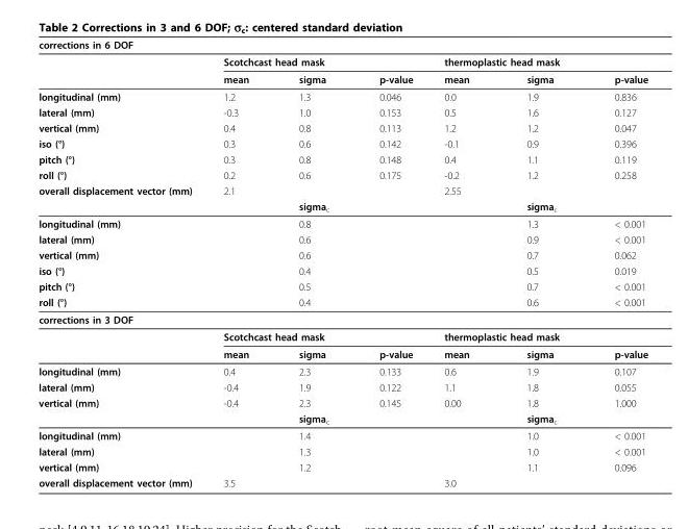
<table><thead><tr><td colspan="2">corrections in 6 DOF</td><td></td><td rowspan="3">p-value</td><td></td><td></td><td rowspan="3">p-value</td></tr><tr><td rowspan="2"></td><td colspan="2">Scotchcast head mask</td><td colspan="2">thermoplastic head mask</td></tr><tr><td>mean</td><td>sigma</td><td>mean</td><td>sigma</td></tr></thead><tbody><tr><td>longitudinal (mm)</td><td>1.2</td><td>1.3</td><td>0.046</td><td>0.0</td><td>1.9</td><td>0.836</td></tr><tr><td>lateral (mm)</td><td>-0.3</td><td>1.0</td><td>0.153</td><td>0.5</td><td>1.6</td><td>0.127</td></tr><tr><td>vertical (mm)</td><td>0.4</td><td>0.8</td><td>0.113</td><td>1.2</td><td>1.2</td><td>0.047</td></tr><tr><td>iso (°)</td><td>0.3</td><td>0.6</td><td>0.142</td><td>-0.1</td><td>0.9</td><td>0.396</td></tr><tr><td>pitch (°)</td><td>0.3</td><td>0.8</td><td>0.148</td><td>0.4</td><td>1.1</td><td>0.119</td></tr><tr><td>roll (°)</td><td>0.2</td><td>0.6</td><td>0.175</td><td>-0.2</td><td>1.2</td><td>0.258</td></tr><tr><td rowspan="2">overall displacement vector (mm)</td><td>2.1</td><td></td><td></td><td>2.55</td><td></td><td></td></tr><tr><td></td><td>sigma<sub>c</sub></td><td></td><td></td><td>sigma<sub>c</sub></td><td></td></tr><tr><td>longitudinal (mm)</td><td></td><td>0.8</td><td></td><td></td><td>1.3</td><td>&lt; 0.001</td></tr><tr><td>lateral (mm)</td><td></td><td>0.6</td><td></td><td></td><td>0.9</td><td>&lt; 0.001</td></tr><tr><td>vertical (mm)</td><td></td><td>0.6</td><td></td><td></td><td>0.7</td><td>0.062</td></tr><tr><td>iso (°)</td><td></td><td>0.4</td><td></td><td></td><td>0.5</td><td>0.019</td></tr><tr><td>pitch (°)</td><td></td><td>0.5</td><td></td><td></td><td>0.7</td><td>&lt; 0.001</td></tr><tr><td>roll (°)</td><td></td><td>0.4</td><td></td><td></td><td>0.6</td><td>&lt; 0.001</td></tr><tr><td colspan="7">corrections in 3 DOF</td></tr><tr><td></td><td colspan="2">Scotchcast head mask</td><td></td><td colspan="2">thermoplastic head mask</td><td></td></tr><tr><td></td><td>mean</td><td>sigma</td><td>p-value</td><td>mean</td><td>sigma</td><td>p-value</td></tr><tr><td>longitudinal (mm)</td><td>0.4</td><td>2.3</td><td>0.133</td><td>0.6</td><td>1.9</td><td>0.107</td></tr><tr><td>lateral (mm)</td><td>-0.4</td><td>1.9</td><td>0.122</td><td>1.1</td><td>1.8</td><td>0.055</td></tr><tr><td rowspan="2">vertical (mm)</td><td>-0.4</td><td>2.3</td><td>0.145</td><td>0.00</td><td>1.8</td><td>1.000</td></tr><tr><td></td><td>sigma<sub>c</sub></td><td></td><td></td><td>sigma<sub>c</sub></td><td></td></tr><tr><td>longitudinal (mm)</td><td></td><td>1.4</td><td></td><td></td><td>1.0</td><td>&lt; 0.001</td></tr><tr><td>lateral (mm)</td><td></td><td>1.3</td><td></td><td></td><td>1.0</td><td>&lt; 0.001</td></tr><tr><td>vertical (mm)</td><td></td><td>1.2</td><td></td><td></td><td>1.1</td><td>0.096</td></tr><tr><td>overall displacement vector (mm)</td><td>3.5</td><td></td><td></td><td>3.0</td><td></td><td></td></tr></tbody></table>